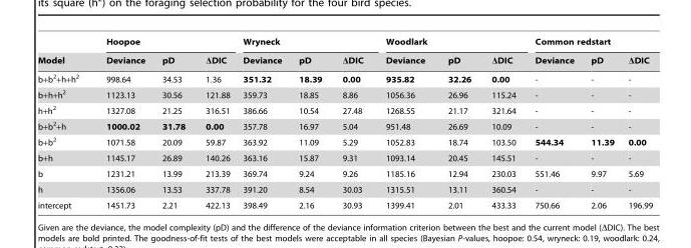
<table><thead><tr><td rowspan="2">Model</td><td colspan="3">Hoopoe</td><td colspan="3">Wryneck</td><td colspan="3">Woodlark</td><td colspan="3">Common redstart</td></tr><tr><td>Deviance</td><td>pD</td><td>ΔDIC</td><td>Deviance</td><td>pD</td><td>ΔDIC</td><td>Deviance</td><td>pD</td><td>ΔDIC</td><td>Deviance</td><td>pD</td><td>ΔDIC</td></tr></thead><tbody><tr><td>b+b<sup>2</sup>+h+h<sup>2</sup></td><td>998.64</td><td>34.53</td><td>1.36</td><td>351.32</td><td>18.39</td><td>0.00</td><td>935.82</td><td>32.26</td><td>0.00</td><td>-</td><td>-</td><td>-</td></tr><tr><td>b+h+h<sup>2</sup></td><td>1123.13</td><td>30.56</td><td>121.88</td><td>359.73</td><td>18.85</td><td>8.86</td><td>1056.36</td><td>26.96</td><td>115.24</td><td>-</td><td>-</td><td>-</td></tr><tr><td>h+h<sup>2</sup></td><td>1327.08</td><td>21.25</td><td>316.51</td><td>386.66</td><td>10.54</td><td>27.48</td><td>1268.55</td><td>21.17</td><td>321.64</td><td>-</td><td>-</td><td>-</td></tr><tr><td>b+b<sup>2</sup>+h</td><td>1000.02</td><td>31.78</td><td>0.00</td><td>357.78</td><td>16.97</td><td>5.04</td><td>951.48</td><td>26.69</td><td>10.09</td><td>-</td><td>-</td><td>-</td></tr><tr><td>b+b<sup>2</sup></td><td>1071.58</td><td>20.09</td><td>59.87</td><td>363.92</td><td>11.09</td><td>5.29</td><td>1052.83</td><td>18.74</td><td>103.50</td><td>544.34</td><td>11.39</td><td>0.00</td></tr><tr><td>b+h</td><td>1145.17</td><td>26.89</td><td>140.26</td><td>363.16</td><td>15.87</td><td>9.31</td><td>1093.14</td><td>20.45</td><td>145.51</td><td>-</td><td>-</td><td>-</td></tr><tr><td>b</td><td>1231.21</td><td>13.99</td><td>213.39</td><td>369.74</td><td>9.24</td><td>9.26</td><td>1185.16</td><td>12.94</td><td>230.03</td><td>551.46</td><td>9.97</td><td>5.69</td></tr><tr><td>h</td><td>1356.06</td><td>13.53</td><td>337.78</td><td>391.20</td><td>8.54</td><td>30.03</td><td>1315.51</td><td>13.11</td><td>360.54</td><td>-</td><td>-</td><td>-</td></tr><tr><td>intercept</td><td>1451.73</td><td>2.21</td><td>422.13</td><td>398.49</td><td>2.16</td><td>30.93</td><td>1399.41</td><td>2.01</td><td>433.33</td><td>750.66</td><td>2.06</td><td>196.99</td></tr></tbody></table>